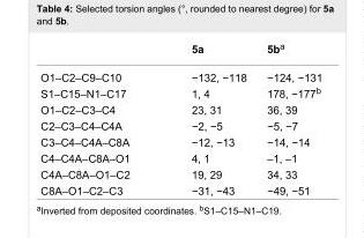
<table><thead><tr><td></td><td>5a</td><td>5b<sup>a</sup></td></tr></thead><tbody><tr><td>O1–C2–C9–C10</td><td>−132, −118</td><td>−124, −131</td></tr><tr><td>S1–C15–N1–C17</td><td>1, 4</td><td>178, −177<sup>b</sup></td></tr><tr><td>O1–C2–C3–C4</td><td>23, 31</td><td>36, 39</td></tr><tr><td>C2–C3–C4–C4A</td><td>−2, −5</td><td>−5, −7</td></tr><tr><td>C3–C4–C4A–C8A</td><td>−12, −13</td><td>−14, −14</td></tr><tr><td>C4–C4A–C8A–O1</td><td>4, 1</td><td>–1, –1</td></tr><tr><td>C4A–C8A–O1–C2</td><td>19, 29</td><td>34, 33</td></tr><tr><td>C8A–O1–C2–C3</td><td>−31, −43</td><td>−49, −51</td></tr></tbody></table>